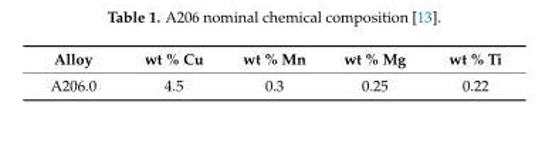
<table><thead><tr><td>Alloy</td><td>wt % Cu</td><td>wt % Mn</td><td>wt % Mg</td><td>wt % Ti</td></tr></thead><tbody><tr><td>A206.0</td><td>4.5</td><td>0.3</td><td>0.25</td><td>0.22</td></tr></tbody></table>